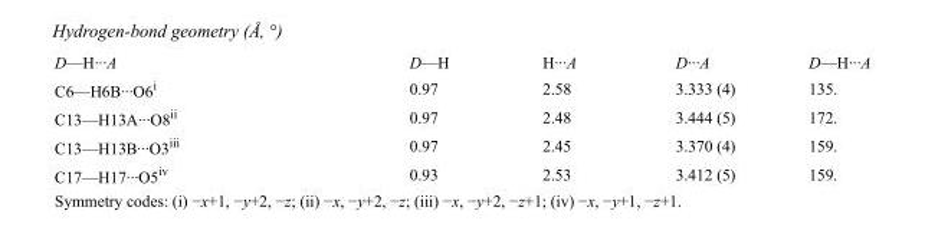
<table><tbody><tr><td>D—H···A</td><td>D—H</td><td>H···A</td><td>D···A</td><td>D—H···A</td></tr><tr><td>C6—H6B···O6<sup>i</sup></td><td>0.97</td><td>2.58</td><td>3.333 (4)</td><td>135.</td></tr><tr><td>C13—H13A···O8<sup>ii</sup></td><td>0.97</td><td>2.48</td><td>3.444 (5)</td><td>172.</td></tr><tr><td>C13—H13B···O3<sup>iii</sup></td><td>0.97</td><td>2.45</td><td>3.370 (4)</td><td>159.</td></tr><tr><td>C17—H17···O5<sup>iv</sup></td><td>0.93</td><td>2.53</td><td>3.412 (5)</td><td>159.</td></tr></tbody></table>